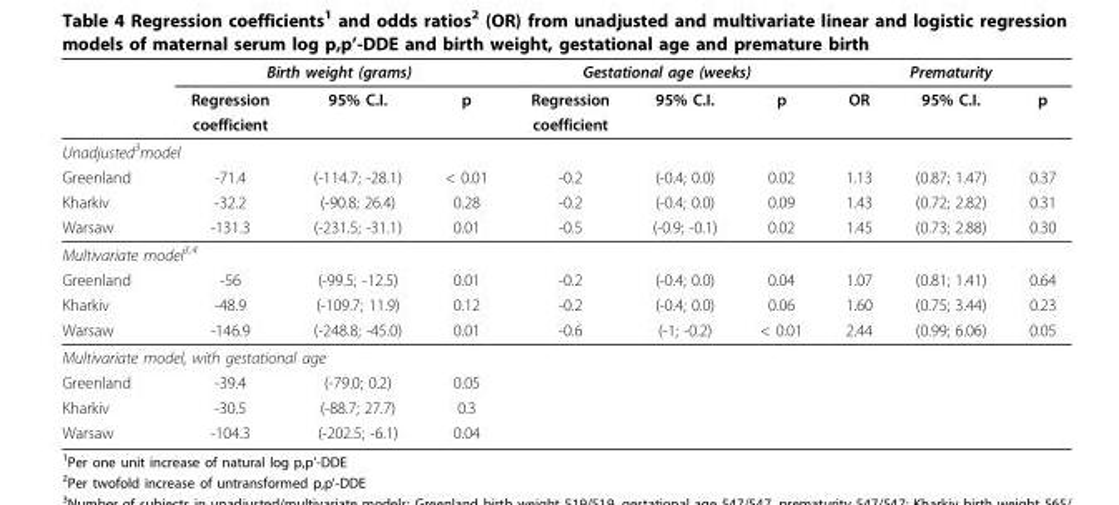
<table><thead><tr><td rowspan="3"></td><td colspan="3">Birth weight (grams)</td><td colspan="3">Gestational age (weeks)</td><td colspan="3">Prematurity</td></tr><tr><td rowspan="2">Regression coefficient</td><td rowspan="2">95% C.I.</td><td rowspan="2">p</td><td rowspan="2">Regression coefficient</td><td rowspan="2">95% C.I.</td><td rowspan="2">p</td><td rowspan="2">OR</td><td rowspan="2">95% C.I.</td><td rowspan="2">p</td></tr><tr></tr></thead><tbody><tr><td colspan="10">Unadjusted<sup>3</sup>model</td></tr><tr><td>Greenland</td><td>-71.4</td><td>(-114.7; -28.1)</td><td>&lt; 0.01</td><td>-0.2</td><td>(-0.4; 0.0)</td><td>0.02</td><td>1.13</td><td>(0.87; 1.47)</td><td>0.37</td></tr><tr><td>Kharkiv</td><td>-32.2</td><td>(-90.8; 26.4)</td><td>0.28</td><td>-0.2</td><td>(-0.4; 0.0)</td><td>0.09</td><td>1.43</td><td>(0.72; 2.82)</td><td>0.31</td></tr><tr><td>Warsaw</td><td>-131.3</td><td>(-231.5; -31.1)</td><td>0.01</td><td>-0.5</td><td>(-0.9; -0.1)</td><td>0.02</td><td>1.45</td><td>(0.73; 2.88)</td><td>0.30</td></tr><tr><td colspan="10">Multivariate model<sup>3,4</sup></td></tr><tr><td>Greenland</td><td>-56</td><td>(-99.5; -12.5)</td><td>0.01</td><td>-0.2</td><td>(-0.4; 0.0)</td><td>0.04</td><td>1.07</td><td>(0.81; 1.41)</td><td>0.64</td></tr><tr><td>Kharkiv</td><td>-48.9</td><td>(-109.7; 11.9)</td><td>0.12</td><td>-0.2</td><td>(-0.4; 0.0)</td><td>0.06</td><td>1.60</td><td>(0.75; 3.44)</td><td>0.23</td></tr><tr><td>Warsaw</td><td>-146.9</td><td>(-248.8; -45.0)</td><td>0.01</td><td>-0.6</td><td>(-1; -0.2)</td><td>&lt; 0.01</td><td>2.44</td><td>(0.99; 6.06)</td><td>0.05</td></tr><tr><td colspan="10">Multivariate model, with gestational age</td></tr><tr><td>Greenland</td><td>-39.4</td><td>(-79.0; 0.2)</td><td>0.05</td><td></td><td></td><td></td><td></td><td></td><td></td></tr><tr><td>Kharkiv</td><td>-30.5</td><td>(-88.7; 27.7)</td><td>0.3</td><td></td><td></td><td></td><td></td><td></td><td></td></tr><tr><td>Warsaw</td><td>-104.3</td><td>(-202.5; -6.1)</td><td>0.04</td><td></td><td></td><td></td><td></td><td></td><td></td></tr></tbody></table>